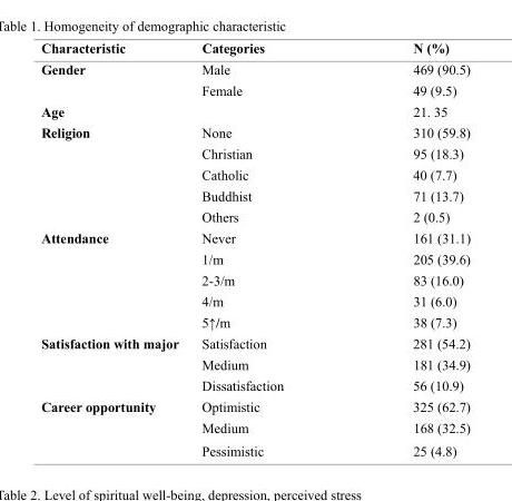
<table><thead><tr><td>Characteristic</td><td>Categories</td><td>N (%)</td></tr></thead><tbody><tr><td rowspan="2">Gender</td><td>Male</td><td>469 (90.5)</td></tr><tr><td>Female</td><td>49 (9.5)</td></tr><tr><td>Age</td><td></td><td>21. 35</td></tr><tr><td rowspan="5">Religion</td><td>None</td><td>310 (59.8)</td></tr><tr><td>Christian</td><td>95 (18.3)</td></tr><tr><td>Catholic</td><td>40 (7.7)</td></tr><tr><td>Buddhist</td><td>71 (13.7)</td></tr><tr><td>Others</td><td>2 (0.5)</td></tr><tr><td rowspan="5">Attendance</td><td>Never</td><td>161 (31.1)</td></tr><tr><td>1/m</td><td>205 (39.6)</td></tr><tr><td>2-3/m</td><td>83 (16.0)</td></tr><tr><td>4/m</td><td>31 (6.0)</td></tr><tr><td>5↑/m</td><td>38 (7.3)</td></tr><tr><td rowspan="3">Satisfaction with major</td><td>Satisfaction</td><td>281 (54.2)</td></tr><tr><td>Medium</td><td>181 (34.9)</td></tr><tr><td>Dissatisfaction</td><td>56 (10.9)</td></tr><tr><td rowspan="3">Career opportunity</td><td>Optimistic</td><td>325 (62.7)</td></tr><tr><td>Medium</td><td>168 (32.5)</td></tr><tr><td>Pessimistic</td><td>25 (4.8)</td></tr></tbody></table>